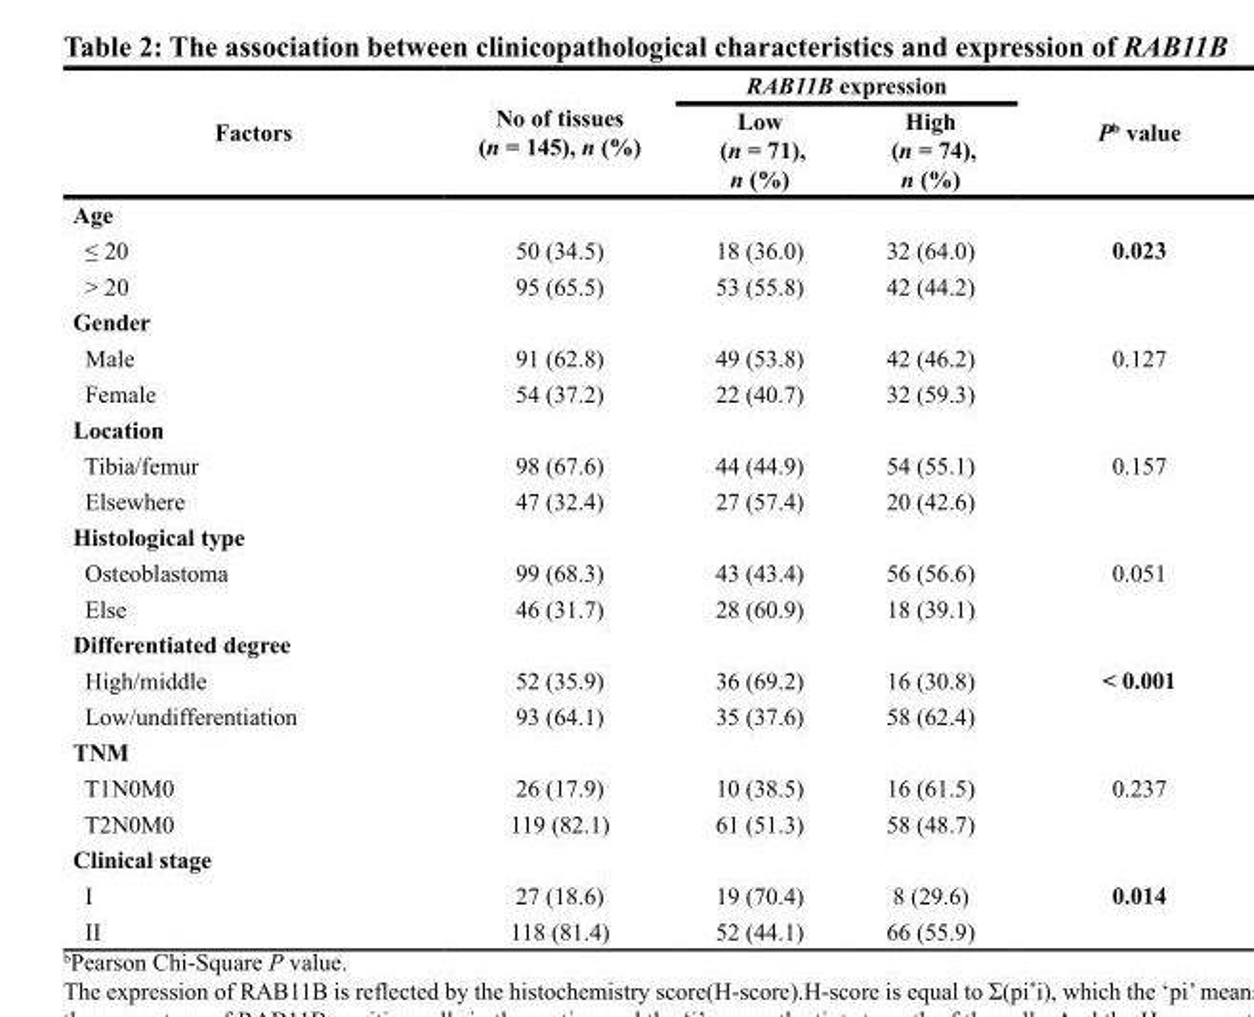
<table><thead><tr><td rowspan="2">Factors</td><td rowspan="2">No of tissues (n = 145), n (%)</td><td colspan="2">RAB11B expression</td><td rowspan="2">P<sup>b</sup> value</td></tr><tr><td>Low (n = 71), n (%)</td><td>High (n = 74), n (%)</td></tr></thead><tbody><tr><td colspan="5">Age</td></tr><tr><td>≤ 20</td><td>50 (34.5)</td><td>18 (36.0)</td><td>32 (64.0)</td><td>0.023</td></tr><tr><td>&gt; 20</td><td>95 (65.5)</td><td>53 (55.8)</td><td>42 (44.2)</td><td></td></tr><tr><td colspan="5">Gender</td></tr><tr><td>Male</td><td>91 (62.8)</td><td>49 (53.8)</td><td>42 (46.2)</td><td>0.127</td></tr><tr><td>Female</td><td>54 (37.2)</td><td>22 (40.7)</td><td>32 (59.3)</td><td></td></tr><tr><td colspan="5">Location</td></tr><tr><td>Tibia/femur</td><td>98 (67.6)</td><td>44 (44.9)</td><td>54 (55.1)</td><td>0.157</td></tr><tr><td>Elsewhere</td><td>47 (32.4)</td><td>27 (57.4)</td><td>20 (42.6)</td><td></td></tr><tr><td colspan="5">Histological type</td></tr><tr><td>Osteoblastoma</td><td>99 (68.3)</td><td>43 (43.4)</td><td>56 (56.6)</td><td>0.051</td></tr><tr><td>Else</td><td>46 (31.7)</td><td>28 (60.9)</td><td>18 (39.1)</td><td></td></tr><tr><td colspan="5">Differentiated degree</td></tr><tr><td>High/middle</td><td>52 (35.9)</td><td>36 (69.2)</td><td>16 (30.8)</td><td>&lt; 0.001</td></tr><tr><td>Low/undifferentiation</td><td>93 (64.1)</td><td>35 (37.6)</td><td>58 (62.4)</td><td></td></tr><tr><td colspan="5">TNM</td></tr><tr><td>T1N0M0</td><td>26 (17.9)</td><td>10 (38.5)</td><td>16 (61.5)</td><td>0.237</td></tr><tr><td>T2N0M0</td><td>119 (82.1)</td><td>61 (51.3)</td><td>58 (48.7)</td><td></td></tr><tr><td colspan="5">Clinical stage</td></tr><tr><td>I</td><td>27 (18.6)</td><td>19 (70.4)</td><td>8 (29.6)</td><td>0.014</td></tr><tr><td>II</td><td>118 (81.4)</td><td>52 (44.1)</td><td>66 (55.9)</td><td></td></tr></tbody></table>